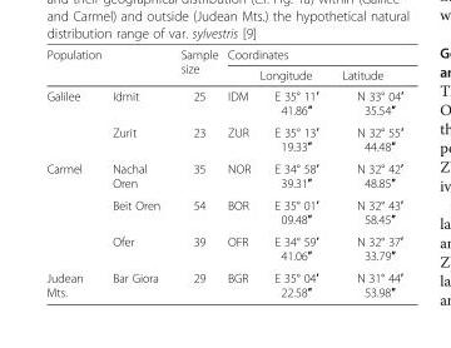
<table><thead><tr><td colspan="2">Population</td><td rowspan="2">Sample size</td><td colspan="3">Coordinates</td></tr><tr><td></td><td></td><td></td><td>Longitude</td><td>Latitude</td></tr></thead><tbody><tr><td rowspan="2">Galilee</td><td>Idmit</td><td>25</td><td>IDM</td><td>E 35° 11′ 41.86″</td><td>N 33° 04′ 35.54″</td></tr><tr><td>Zurit</td><td>23</td><td>ZUR</td><td>E 35° 13′ 19.33″</td><td>N 32° 55′ 44.48″</td></tr><tr><td rowspan="3">Carmel</td><td>Nachal Oren</td><td>35</td><td>NOR</td><td>E 34° 58′ 39.31″</td><td>N 32° 42′ 48.85″</td></tr><tr><td>Beit Oren</td><td>54</td><td>BOR</td><td>E 35° 01′ 09.48″</td><td>N 32° 43′ 58.45″</td></tr><tr><td>Ofer</td><td>39</td><td>OFR</td><td>E 34° 59′ 41.06″</td><td>N 32° 37′ 33.79″</td></tr><tr><td>Judean Mts.</td><td>Bar Giora</td><td>29</td><td>BGR</td><td>E 35° 04′ 22.58″</td><td>N 31° 44′ 53.98″</td></tr></tbody></table>